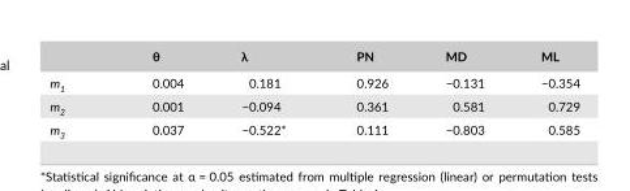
<table><thead><tr><td></td><td>θ</td><td>λ</td><td>PN</td><td>MD</td><td>ML</td></tr></thead><tbody><tr><td>m<sub>1</sub></td><td>0.004</td><td>0.181</td><td>0.926</td><td>−0.131</td><td>−0.354</td></tr><tr><td>m<sub>2</sub></td><td>0.001</td><td>−0.094</td><td>0.361</td><td>0.581</td><td>0.729</td></tr><tr><td>m<sub>3</sub></td><td>0.037</td><td>−0.522*</td><td>0.111</td><td>−0.803</td><td>0.585</td></tr></tbody></table>